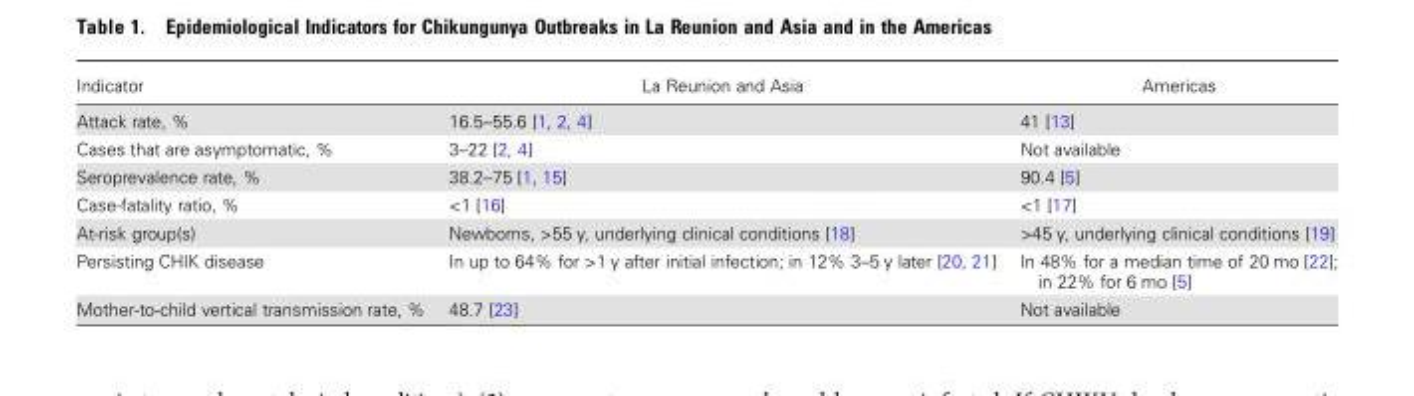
<table><thead><tr><td>Indicator</td><td>La Reunion and Asia</td><td>Americas</td></tr></thead><tbody><tr><td>Attack rate, %</td><td>16.5–55.6 [1, 2, 4]</td><td>41 [13]</td></tr><tr><td>Cases that are asymptomatic, %</td><td>3–22 [2, 4]</td><td>Not available</td></tr><tr><td>Seroprevalence rate, %</td><td>38.2–75 [1, 15]</td><td>90.4 [5]</td></tr><tr><td>Case-fatality ratio, %</td><td>&lt;1 [16]</td><td>&lt;1 [17]</td></tr><tr><td>At-risk group(s)</td><td>Newborns, &gt;55 y, underlying clinical conditions [18]</td><td>&gt;45 y, underlying clinical conditions [19]</td></tr><tr><td>Persisting CHIK disease</td><td>In up to 64% for &gt;1 y after initial infection; in 12% 3–5 y later [20, 21]</td><td>In 48% for a median time of 20 mo [22]; in 22% for 6 mo [5]</td></tr><tr><td>Mother-to-child vertical transmission rate, %</td><td>48.7 [23]</td><td>Not available</td></tr></tbody></table>